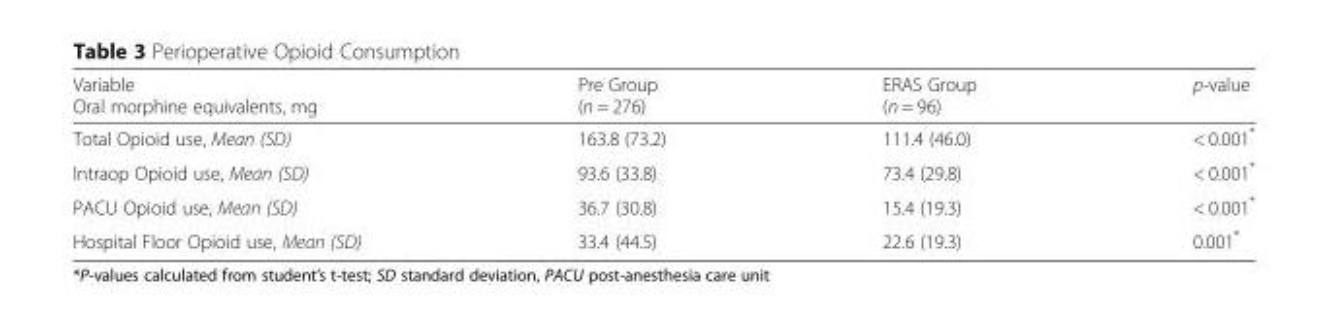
<table><thead><tr><td>Variable Oral morphine equivalents, mg</td><td>Pre Group (n = 276)</td><td>ERAS Group (n = 96)</td><td>p-value</td></tr></thead><tbody><tr><td>Total Opioid use, Mean (SD)</td><td>163.8 (73.2)</td><td>111.4 (46.0)</td><td>&lt; 0.001*</td></tr><tr><td>Intraop Opioid use, Mean (SD)</td><td>93.6 (33.8)</td><td>73.4 (29.8)</td><td>&lt; 0.001*</td></tr><tr><td>PACU Opioid use, Mean (SD)</td><td>36.7 (30.8)</td><td>15.4 (19.3)</td><td>&lt; 0.001*</td></tr><tr><td>Hospital Floor Opioid use, Mean (SD)</td><td>33.4 (44.5)</td><td>22.6 (19.3)</td><td>0.001*</td></tr></tbody></table>